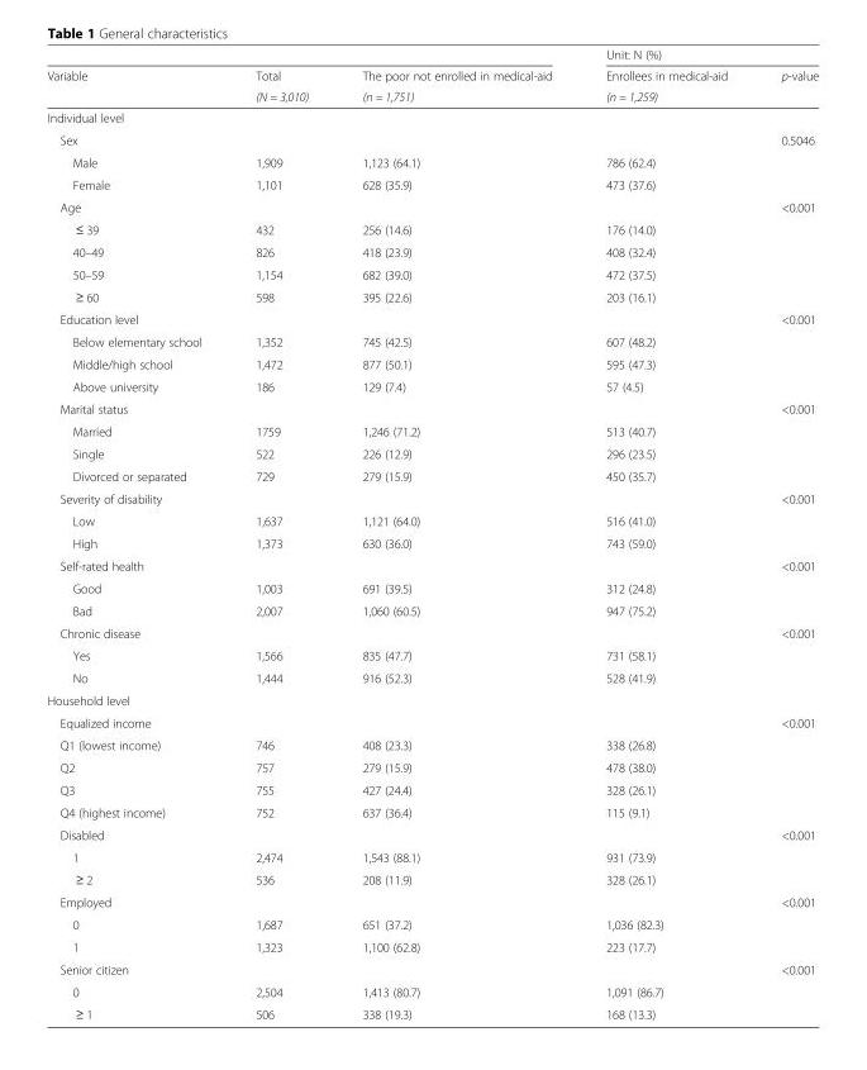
<table><thead><tr><td rowspan="3">Variable</td><td rowspan="3">Total (N = 3,010)</td><td rowspan="3">The poor not enrolled in medical-aid (n = 1,751)</td><td colspan="2">Unit: N (%)</td></tr><tr><td rowspan="2">Enrollees in medical-aid (n = 1,259)</td><td rowspan="2">p-value</td></tr><tr></tr></thead><tbody><tr><td colspan="5">Individual level</td></tr><tr><td>Sex</td><td></td><td></td><td></td><td>0.5046</td></tr><tr><td>Male</td><td>1,909</td><td>1,123 (64.1)</td><td>786 (62.4)</td><td></td></tr><tr><td>Female</td><td>1,101</td><td>628 (35.9)</td><td>473 (37.6)</td><td></td></tr><tr><td>Age</td><td></td><td></td><td></td><td>&lt;0.001</td></tr><tr><td>≤ 39</td><td>432</td><td>256 (14.6)</td><td>176 (14.0)</td><td></td></tr><tr><td>40–49</td><td>826</td><td>418 (23.9)</td><td>408 (32.4)</td><td></td></tr><tr><td>50–59</td><td>1,154</td><td>682 (39.0)</td><td>472 (37.5)</td><td></td></tr><tr><td>≥ 60</td><td>598</td><td>395 (22.6)</td><td>203 (16.1)</td><td></td></tr><tr><td>Education level</td><td></td><td></td><td></td><td>&lt;0.001</td></tr><tr><td>Below elementary school</td><td>1,352</td><td>745 (42.5)</td><td>607 (48.2)</td><td></td></tr><tr><td>Middle/high school</td><td>1,472</td><td>877 (50.1)</td><td>595 (47.3)</td><td></td></tr><tr><td>Above university</td><td>186</td><td>129 (7.4)</td><td>57 (4.5)</td><td></td></tr><tr><td>Marital status</td><td></td><td></td><td></td><td>&lt;0.001</td></tr><tr><td>Married</td><td>1759</td><td>1,246 (71.2)</td><td>513 (40.7)</td><td></td></tr><tr><td>Single</td><td>522</td><td>226 (12.9)</td><td>296 (23.5)</td><td></td></tr><tr><td>Divorced or separated</td><td>729</td><td>279 (15.9)</td><td>450 (35.7)</td><td></td></tr><tr><td>Severity of disability</td><td></td><td></td><td></td><td>&lt;0.001</td></tr><tr><td>Low</td><td>1,637</td><td>1,121 (64.0)</td><td>516 (41.0)</td><td></td></tr><tr><td>High</td><td>1,373</td><td>630 (36.0)</td><td>743 (59.0)</td><td></td></tr><tr><td>Self-rated health</td><td></td><td></td><td></td><td>&lt;0.001</td></tr><tr><td>Good</td><td>1,003</td><td>691 (39.5)</td><td>312 (24.8)</td><td></td></tr><tr><td>Bad</td><td>2,007</td><td>1,060 (60.5)</td><td>947 (75.2)</td><td></td></tr><tr><td>Chronic disease</td><td></td><td></td><td></td><td>&lt;0.001</td></tr><tr><td>Yes</td><td>1,566</td><td>835 (47.7)</td><td>731 (58.1)</td><td></td></tr><tr><td>No</td><td>1,444</td><td>916 (52.3)</td><td>528 (41.9)</td><td></td></tr><tr><td colspan="5">Household level</td></tr><tr><td>Equalized income</td><td></td><td></td><td></td><td>&lt;0.001</td></tr><tr><td>Q1 (lowest income)</td><td>746</td><td>408 (23.3)</td><td>338 (26.8)</td><td></td></tr><tr><td>Q2</td><td>757</td><td>279 (15.9)</td><td>478 (38.0)</td><td></td></tr><tr><td>Q3</td><td>755</td><td>427 (24.4)</td><td>328 (26.1)</td><td></td></tr><tr><td>Q4 (highest income)</td><td>752</td><td>637 (36.4)</td><td>115 (9.1)</td><td></td></tr><tr><td>Disabled</td><td></td><td></td><td></td><td>&lt;0.001</td></tr><tr><td>1</td><td>2,474</td><td>1,543 (88.1)</td><td>931 (73.9)</td><td></td></tr><tr><td>≥ 2</td><td>536</td><td>208 (11.9)</td><td>328 (26.1)</td><td></td></tr><tr><td>Employed</td><td></td><td></td><td></td><td>&lt;0.001</td></tr><tr><td>0</td><td>1,687</td><td>651 (37.2)</td><td>1,036 (82.3)</td><td></td></tr><tr><td>1</td><td>1,323</td><td>1,100 (62.8)</td><td>223 (17.7)</td><td></td></tr><tr><td>Senior citizen</td><td></td><td></td><td></td><td>&lt;0.001</td></tr><tr><td>0</td><td>2,504</td><td>1,413 (80.7)</td><td>1,091 (86.7)</td><td></td></tr><tr><td>≥ 1</td><td>506</td><td>338 (19.3)</td><td>168 (13.3)</td><td></td></tr></tbody></table>